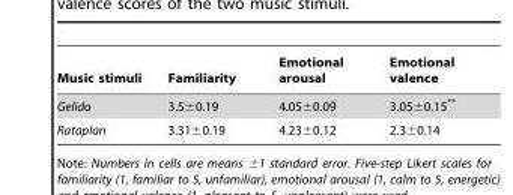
<table><thead><tr><td>Music stimuli</td><td>Familiarity</td><td>Emotional arousal</td><td>Emotional valence</td></tr></thead><tbody><tr><td>Gelido</td><td>3.5±0.19</td><td>4.05±0.09</td><td>3.05±0.15**</td></tr><tr><td>Rataplan</td><td>3.31±0.19</td><td>4.23±0.12</td><td>2.3±0.14</td></tr></tbody></table>